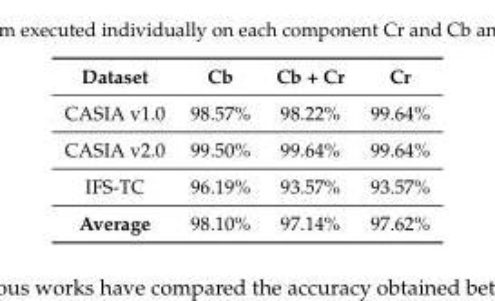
<table><thead><tr><td>Dataset</td><td>Cb</td><td>Cb + Cr</td><td>Cr</td></tr></thead><tbody><tr><td>CASIA v1.0</td><td>98.57%</td><td>98.22%</td><td>99.64%</td></tr><tr><td>CASIA v2.0</td><td>99.50%</td><td>99.64%</td><td>99.64%</td></tr><tr><td>IFS-TC</td><td>96.19%</td><td>93.57%</td><td>93.57%</td></tr><tr><td>Average</td><td>98.10%</td><td>97.14%</td><td>97.62%</td></tr></tbody></table>